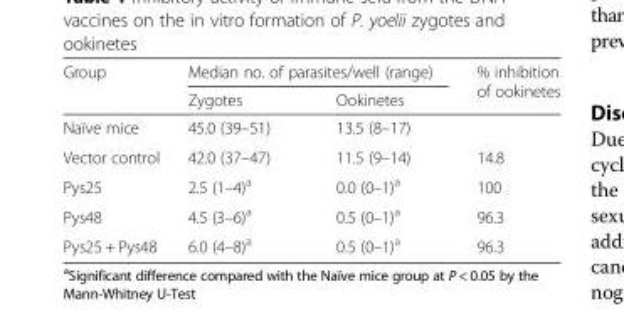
<table><thead><tr><td rowspan="2">Group</td><td colspan="2">Median no. of parasites/well (range)</td><td rowspan="2">% inhibition of ookinetes</td></tr><tr><td>Zygotes</td><td>Ookinetes</td></tr></thead><tbody><tr><td>Naïve mice</td><td>45.0 (39–51)</td><td>13.5 (8–17)</td><td></td></tr><tr><td>Vector control</td><td>42.0 (37–47)</td><td>11.5 (9–14)</td><td>14.8</td></tr><tr><td>Pys25</td><td>2.5 (1–4)<sup>a</sup></td><td>0.0 (0–1)<sup>a</sup></td><td>100</td></tr><tr><td>Pys48</td><td>4.5 (3–6)<sup>a</sup></td><td>0.5 (0–1)<sup>a</sup></td><td>96.3</td></tr><tr><td>Pys25 + Pys48</td><td>6.0 (4–8)<sup>a</sup></td><td>0.5 (0–1)<sup>a</sup></td><td>96.3</td></tr></tbody></table>